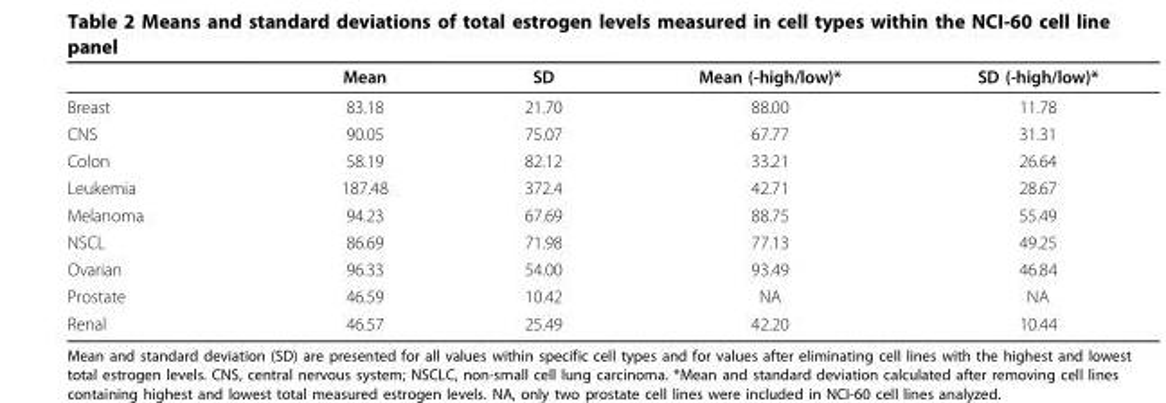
<table><thead><tr><td></td><td>Mean</td><td>SD</td><td>Mean (-high/low)*</td><td>SD (-high/low)*</td></tr></thead><tbody><tr><td>Breast</td><td>83.18</td><td>21.70</td><td>88.00</td><td>11.78</td></tr><tr><td>CNS</td><td>90.05</td><td>75.07</td><td>67.77</td><td>31.31</td></tr><tr><td>Colon</td><td>58.19</td><td>82.12</td><td>33.21</td><td>26.64</td></tr><tr><td>Leukemia</td><td>187.48</td><td>372.4</td><td>42.71</td><td>28.67</td></tr><tr><td>Melanoma</td><td>94.23</td><td>67.69</td><td>88.75</td><td>55.49</td></tr><tr><td>NSCL</td><td>86.69</td><td>71.98</td><td>77.13</td><td>49.25</td></tr><tr><td>Ovarian</td><td>96.33</td><td>54.00</td><td>93.49</td><td>46.84</td></tr><tr><td>Prostate</td><td>46.59</td><td>10.42</td><td>NA</td><td>NA</td></tr><tr><td>Renal</td><td>46.57</td><td>25.49</td><td>42.20</td><td>10.44</td></tr></tbody></table>